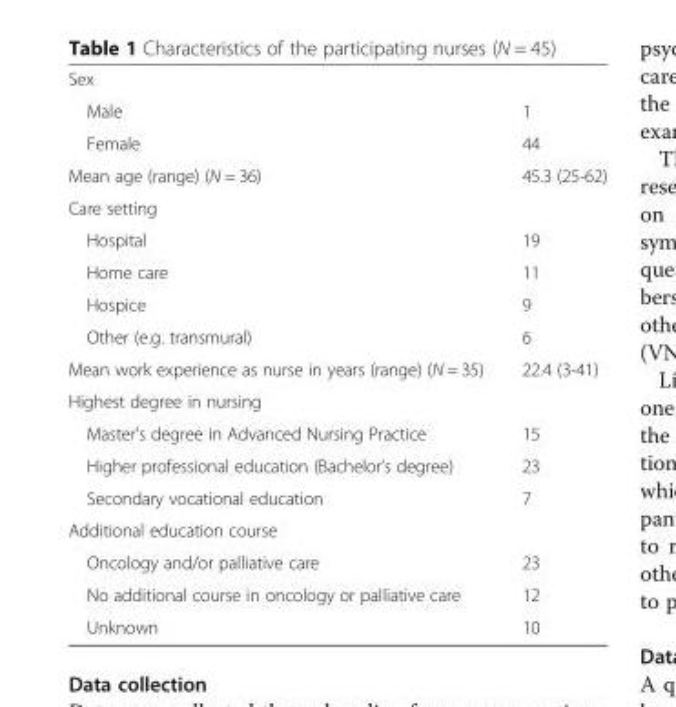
<table><tbody><tr><td colspan="2">Sex</td></tr><tr><td>Male</td><td>1</td></tr><tr><td>Female</td><td>44</td></tr><tr><td>Mean age (range) (N = 36)</td><td>45.3 (25-62)</td></tr><tr><td colspan="2">Care setting</td></tr><tr><td>Hospital</td><td>19</td></tr><tr><td>Home care</td><td>11</td></tr><tr><td>Hospice</td><td>9</td></tr><tr><td>Other (e.g. transmural)</td><td>6</td></tr><tr><td>Mean work experience as nurse in years (range) (N = 35)</td><td>22.4 (3-41)</td></tr><tr><td colspan="2">Highest degree in nursing</td></tr><tr><td>Master’s degree in Advanced Nursing Practice</td><td>15</td></tr><tr><td>Higher professional education (Bachelor’s degree)</td><td>23</td></tr><tr><td>Secondary vocational education</td><td>7</td></tr><tr><td colspan="2">Additional education course</td></tr><tr><td>Oncology and/or palliative care</td><td>23</td></tr><tr><td>No additional course in oncology or palliative care</td><td>12</td></tr><tr><td>Unknown</td><td>10</td></tr></tbody></table>